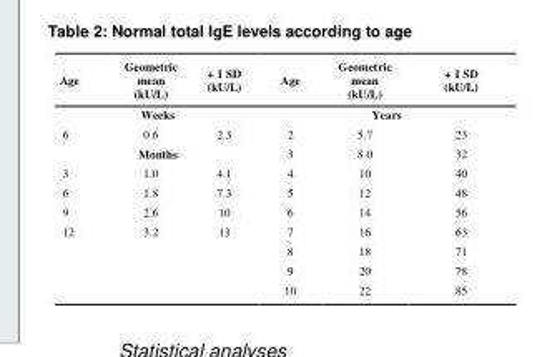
<table><thead><tr><td>Age</td><td>Geometric mean (kU/L)</td><td>+ 1 SD (kU/L)</td><td>Age</td><td>Geometric mean (kU/L)</td><td>+ 1 SD (kU/L)</td></tr></thead><tbody><tr><td></td><td>Weeks</td><td></td><td></td><td>Years</td><td></td></tr><tr><td rowspan="2">6</td><td>0.6</td><td>2.3</td><td>2</td><td>5.7</td><td>23</td></tr><tr><td>Months</td><td></td><td>3</td><td>8.0</td><td>32</td></tr><tr><td>3</td><td>1.0</td><td>4.1</td><td>4</td><td>10</td><td>40</td></tr><tr><td>6</td><td>1.8</td><td>7.3</td><td>5</td><td>12</td><td>48</td></tr><tr><td>9</td><td>2.6</td><td>10</td><td>6</td><td>14</td><td>56</td></tr><tr><td rowspan="4">12</td><td>3.2</td><td>13</td><td>7</td><td>16</td><td>63</td></tr><tr><td></td><td></td><td>8</td><td>18</td><td>71</td></tr><tr><td></td><td></td><td>9</td><td>20</td><td>78</td></tr><tr><td></td><td></td><td>10</td><td>22</td><td>85</td></tr></tbody></table>